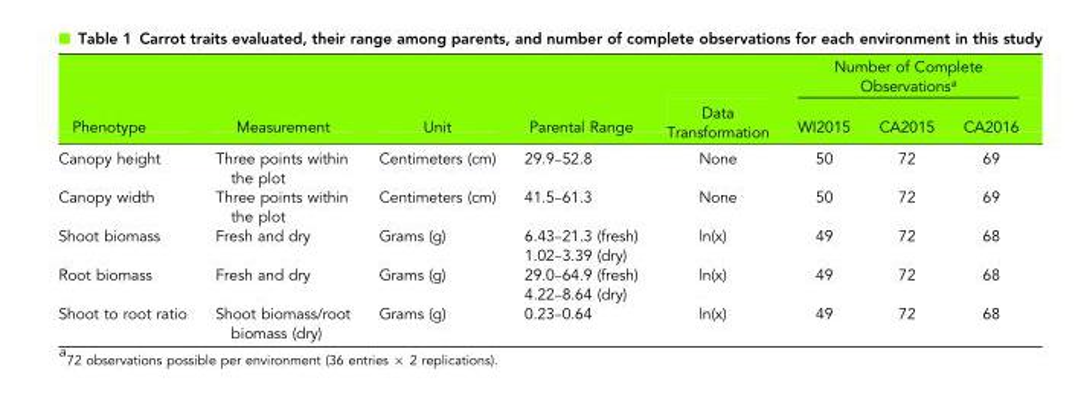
<table><thead><tr><td rowspan="2">Phenotype</td><td rowspan="2">Measurement</td><td rowspan="2">Unit</td><td rowspan="2">Parental Range</td><td rowspan="2">Data Transformation</td><td colspan="3">Number of Complete Observations<sup>a</sup></td></tr><tr><td>WI2015</td><td>CA2015</td><td>CA2016</td></tr></thead><tbody><tr><td>Canopy height</td><td>Three points within the plot</td><td>Centimeters (cm)</td><td>29.9–52.8</td><td>None</td><td>50</td><td>72</td><td>69</td></tr><tr><td>Canopy width</td><td>Three points within the plot</td><td>Centimeters (cm)</td><td>41.5–61.3</td><td>None</td><td>50</td><td>72</td><td>69</td></tr><tr><td rowspan="2">Shoot biomass</td><td rowspan="2">Fresh and dry</td><td rowspan="2">Grams (g)</td><td>6.43–21.3 (fresh)</td><td rowspan="2">ln(x)</td><td rowspan="2">49</td><td rowspan="2">72</td><td rowspan="2">68</td></tr><tr><td>1.02–3.39 (dry)</td></tr><tr><td rowspan="2">Root biomass</td><td rowspan="2">Fresh and dry</td><td rowspan="2">Grams (g)</td><td>29.0–64.9 (fresh)</td><td rowspan="2">ln(x)</td><td rowspan="2">49</td><td rowspan="2">72</td><td rowspan="2">68</td></tr><tr><td>4.22–8.64 (dry)</td></tr><tr><td>Shoot to root ratio</td><td>Shoot biomass/root biomass (dry)</td><td>Grams (g)</td><td>0.23–0.64</td><td>ln(x)</td><td>49</td><td>72</td><td>68</td></tr></tbody></table>